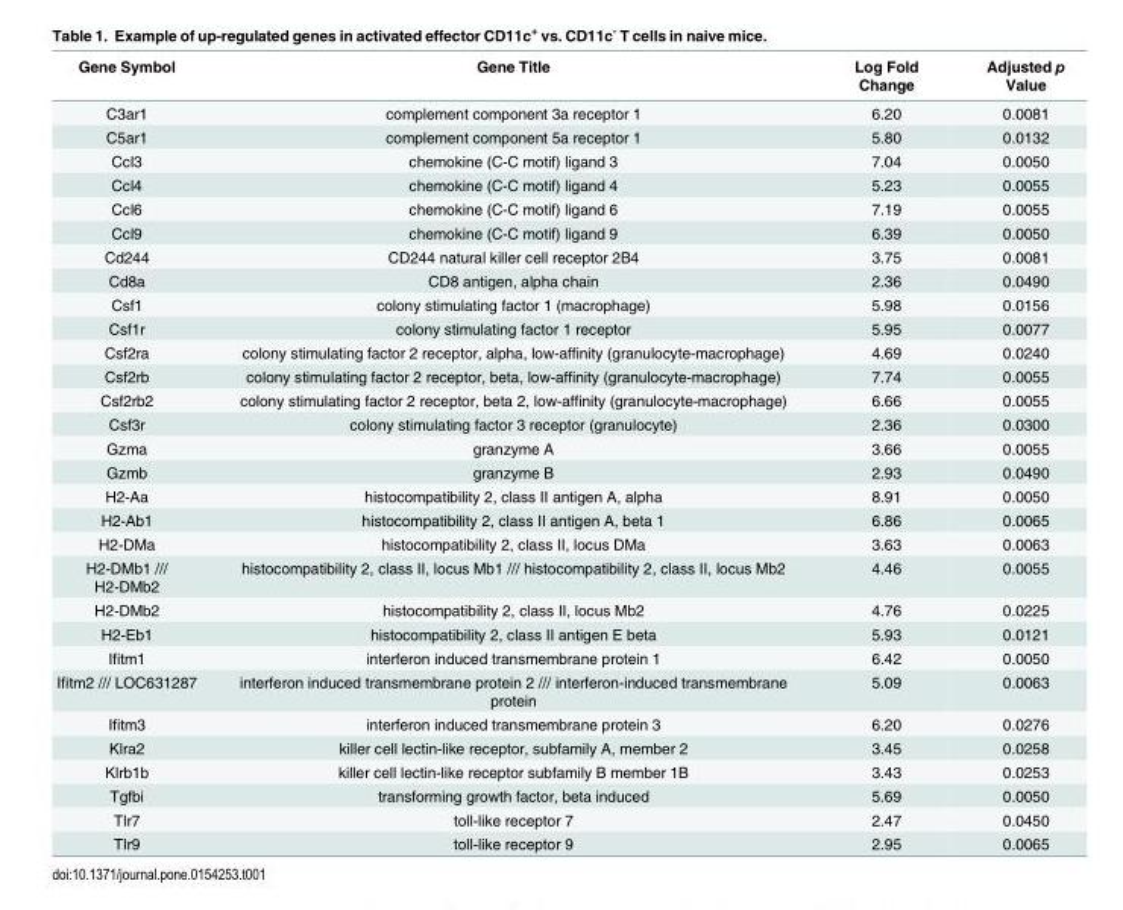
<table><thead><tr><td>Gene Symbol</td><td>Gene Title</td><td>Log Fold Change</td><td>Adjusted p Value</td></tr></thead><tbody><tr><td>C3ar1</td><td>complement component 3a receptor 1</td><td>6.20</td><td>0.0081</td></tr><tr><td>C5ar1</td><td>complement component 5a receptor 1</td><td>5.80</td><td>0.0132</td></tr><tr><td>Ccl3</td><td>chemokine (C-C motif) ligand 3</td><td>7.04</td><td>0.0050</td></tr><tr><td>Ccl4</td><td>chemokine (C-C motif) ligand 4</td><td>5.23</td><td>0.0055</td></tr><tr><td>Ccl6</td><td>chemokine (C-C motif) ligand 6</td><td>7.19</td><td>0.0055</td></tr><tr><td>Ccl9</td><td>chemokine (C-C motif) ligand 9</td><td>6.39</td><td>0.0050</td></tr><tr><td>Cd244</td><td>CD244 natural killer cell receptor 2B4</td><td>3.75</td><td>0.0081</td></tr><tr><td>Cd8a</td><td>CD8 antigen, alpha chain</td><td>2.36</td><td>0.0490</td></tr><tr><td>Csf1</td><td>colony stimulating factor 1 (macrophage)</td><td>5.98</td><td>0.0156</td></tr><tr><td>Csf1r</td><td>colony stimulating factor 1 receptor</td><td>5.95</td><td>0.0077</td></tr><tr><td>Csf2ra</td><td>colony stimulating factor 2 receptor, alpha, low-affinity (granulocyte-macrophage)</td><td>4.69</td><td>0.0240</td></tr><tr><td>Csf2rb</td><td>colony stimulating factor 2 receptor, beta, low-affinity (granulocyte-macrophage)</td><td>7.74</td><td>0.0055</td></tr><tr><td>Csf2rb2</td><td>colony stimulating factor 2 receptor, beta 2, low-affinity (granulocyte-macrophage)</td><td>6.66</td><td>0.0055</td></tr><tr><td>Csf3r</td><td>colony stimulating factor 3 receptor (granulocyte)</td><td>2.36</td><td>0.0300</td></tr><tr><td>Gzma</td><td>granzyme A</td><td>3.66</td><td>0.0055</td></tr><tr><td>Gzmb</td><td>granzyme B</td><td>2.93</td><td>0.0490</td></tr><tr><td>H2-Aa</td><td>histocompatibility 2, class II antigen A, alpha</td><td>8.91</td><td>0.0050</td></tr><tr><td>H2-Ab1</td><td>histocompatibility 2, class II antigen A, beta 1</td><td>6.86</td><td>0.0065</td></tr><tr><td>H2-DMa</td><td>histocompatibility 2, class II, locus DMa</td><td>3.63</td><td>0.0063</td></tr><tr><td>H2-DMb1 /// H2-DMb2</td><td>histocompatibility 2, class II, locus Mb1 /// histocompatibility 2, class II, locus Mb2</td><td>4.46</td><td>0.0055</td></tr><tr><td>H2-DMb2</td><td>histocompatibility 2, class II, locus Mb2</td><td>4.76</td><td>0.0225</td></tr><tr><td>H2-Eb1</td><td>histocompatibility 2, class II antigen E beta</td><td>5.93</td><td>0.0121</td></tr><tr><td>Ifitm1</td><td>interferon induced transmembrane protein 1</td><td>6.42</td><td>0.0050</td></tr><tr><td>Ifitm2 /// LOC631287</td><td>interferon induced transmembrane protein 2 /// interferon-induced transmembrane protein</td><td>5.09</td><td>0.0063</td></tr><tr><td>Ifitm3</td><td>interferon induced transmembrane protein 3</td><td>6.20</td><td>0.0276</td></tr><tr><td>Klra2</td><td>killer cell lectin-like receptor, subfamily A, member 2</td><td>3.45</td><td>0.0258</td></tr><tr><td>Klrb1b</td><td>killer cell lectin-like receptor subfamily B member 1B</td><td>3.43</td><td>0.0253</td></tr><tr><td>Tgfbi</td><td>transforming growth factor, beta induced</td><td>5.69</td><td>0.0050</td></tr><tr><td>Tlr7</td><td>toll-like receptor 7</td><td>2.47</td><td>0.0450</td></tr><tr><td>Tlr9</td><td>toll-like receptor 9</td><td>2.95</td><td>0.0065</td></tr></tbody></table>